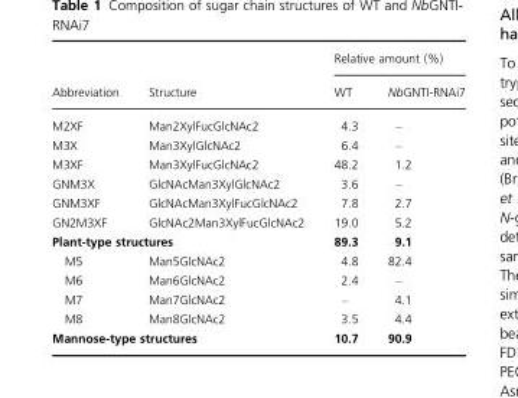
<table><thead><tr><td rowspan="2">Abbreviation</td><td rowspan="2">Structure</td><td colspan="2">Relative amount (%)</td></tr><tr><td>WT</td><td>NbGNTI-RNAi7</td></tr></thead><tbody><tr><td>M2XF</td><td>Man2XylFucGlcNAc2</td><td>4.3</td><td>–</td></tr><tr><td>M3X</td><td>Man3XylGlcNAc2</td><td>6.4</td><td>–</td></tr><tr><td>M3XF</td><td>Man3XylFucGlcNAc2</td><td>48.2</td><td>1.2</td></tr><tr><td>GNM3X</td><td>GlcNAcMan3XylGlcNAc2</td><td>3.6</td><td>–</td></tr><tr><td>GNM3XF</td><td>GlcNAcMan3XylFucGlcNAc2</td><td>7.8</td><td>2.7</td></tr><tr><td>GN2M3XF</td><td>GlcNAc2Man3XylFucGlcNAc2</td><td>19.0</td><td>5.2</td></tr><tr><td colspan="2">Plant-type structures</td><td>89.3</td><td>9.1</td></tr><tr><td>M5</td><td>Man5GlcNAc2</td><td>4.8</td><td>82.4</td></tr><tr><td>M6</td><td>Man6GlcNAc2</td><td>2.4</td><td>–</td></tr><tr><td>M7</td><td>Man7GlcNAc2</td><td>–</td><td>4.1</td></tr><tr><td>M8</td><td>Man8GlcNAc2</td><td>3.5</td><td>4.4</td></tr><tr><td colspan="2">Mannose-type structures</td><td>10.7</td><td>90.9</td></tr></tbody></table>